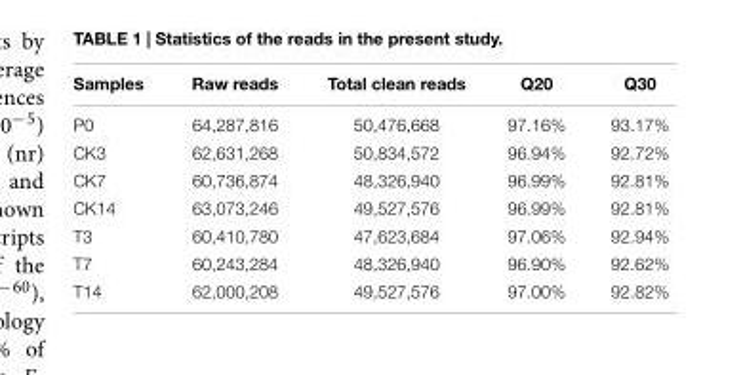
<table><thead><tr><td>Samples</td><td>Raw reads</td><td>Total clean reads</td><td>Q20</td><td>Q30</td></tr></thead><tbody><tr><td>P0</td><td>64,287,816</td><td>50,476,668</td><td>97.16%</td><td>93.17%</td></tr><tr><td>CK3</td><td>62,631,268</td><td>50,834,572</td><td>96.94%</td><td>92.72%</td></tr><tr><td>CK7</td><td>60,736,874</td><td>48,326,940</td><td>96.99%</td><td>92.81%</td></tr><tr><td>CK14</td><td>63,073,246</td><td>49,527,576</td><td>96.99%</td><td>92.81%</td></tr><tr><td>T3</td><td>60,410,780</td><td>47,623,684</td><td>97.06%</td><td>92.94%</td></tr><tr><td>T7</td><td>60,243,284</td><td>48,326,940</td><td>96.90%</td><td>92.62%</td></tr><tr><td>T14</td><td>62,000,208</td><td>49,527,576</td><td>97.00%</td><td>92.82%</td></tr></tbody></table>